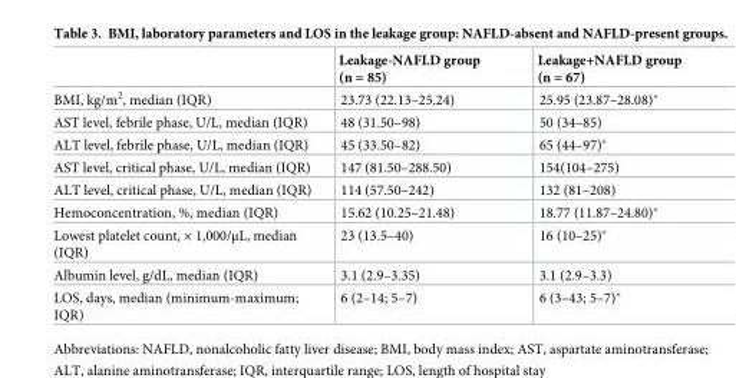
<table><thead><tr><td></td><td>Leakage-NAFLD group (n = 85)</td><td>Leakage+NAFLD group (n = 67)</td></tr></thead><tbody><tr><td>BMI, kg/m<sup>2</sup>, median (IQR)</td><td>23.73 (22.13–25.24)</td><td>25.95 (23.87–28.08)*</td></tr><tr><td>AST level, febrile phase, U/L, median (IQR)</td><td>48 (31.50–98)</td><td>50 (34–85)</td></tr><tr><td>ALT level, febrile phase, U/L, median (IQR)</td><td>45 (33.50–82)</td><td>65 (44–97)*</td></tr><tr><td>AST level, critical phase, U/L, median (IQR)</td><td>147 (81.50–288.50)</td><td>154(104–275)</td></tr><tr><td>ALT level, critical phase, U/L, median (IQR)</td><td>114 (57.50–242)</td><td>132 (81–208)</td></tr><tr><td>Hemoconcentration, %, median (IQR)</td><td>15.62 (10.25–21.48)</td><td>18.77 (11.87–24.80)*</td></tr><tr><td>Lowest platelet count, × 1,000/μL, median (IQR)</td><td>23 (13.5–40)</td><td>16 (10–25)*</td></tr><tr><td>Albumin level, g/dL, median (IQR)</td><td>3.1 (2.9–3.35)</td><td>3.1 (2.9–3.3)</td></tr><tr><td>LOS, days, median (minimum-maximum; IQR)</td><td>6 (2–14; 5–7)</td><td>6 (3–43; 5–7)*</td></tr></tbody></table>